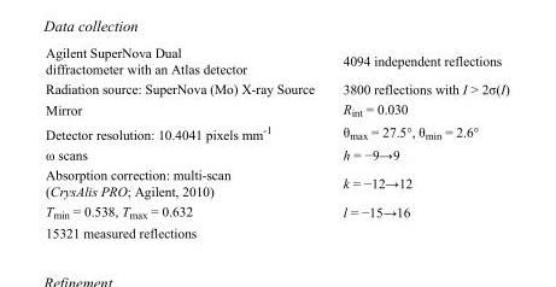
<table><tbody><tr><td>Agilent SuperNova Dual diffractometer with an Atlas detector</td><td>4094 independent reflections</td></tr><tr><td>Radiation source: SuperNova (Mo) X-ray Source</td><td>3800 reflections with I &gt; 2σ(I)</td></tr><tr><td>Mirror</td><td>R<sub>int</sub> = 0.030</td></tr><tr><td>Detector resolution: 10.4041 pixels mm<sup>-1</sup></td><td>θ<sub>max</sub> = 27.5°, θ<sub>min</sub> = 2.6°</td></tr><tr><td>ω scans</td><td>h = −9→9</td></tr><tr><td>Absorption correction: multi-scan (CrysAlis PRO; Agilent, 2010)</td><td>k = −12→12</td></tr><tr><td>T<sub>min</sub> = 0.538, T<sub>max</sub> = 0.632</td><td>l = −15→16</td></tr><tr><td>15321 measured reflections</td><td></td></tr></tbody></table>